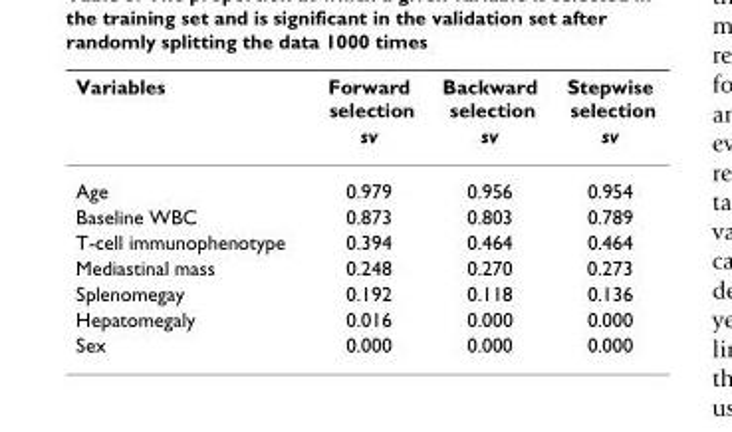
<table><thead><tr><td rowspan="2">Variables</td><td rowspan="2">Forward selection sv</td><td rowspan="2">Backward selection sv</td><td rowspan="2">Stepwise selection sv</td></tr><tr></tr></thead><tbody><tr><td>Age</td><td>0.979</td><td>0.956</td><td>0.954</td></tr><tr><td>Baseline WBC</td><td>0.873</td><td>0.803</td><td>0.789</td></tr><tr><td>T-cell immunophenotype</td><td>0.394</td><td>0.464</td><td>0.464</td></tr><tr><td>Mediastinal mass</td><td>0.248</td><td>0.270</td><td>0.273</td></tr><tr><td>Splenomegay</td><td>0.192</td><td>0.118</td><td>0.136</td></tr><tr><td>Hepatomegaly</td><td>0.016</td><td>0.000</td><td>0.000</td></tr><tr><td>Sex</td><td>0.000</td><td>0.000</td><td>0.000</td></tr></tbody></table>